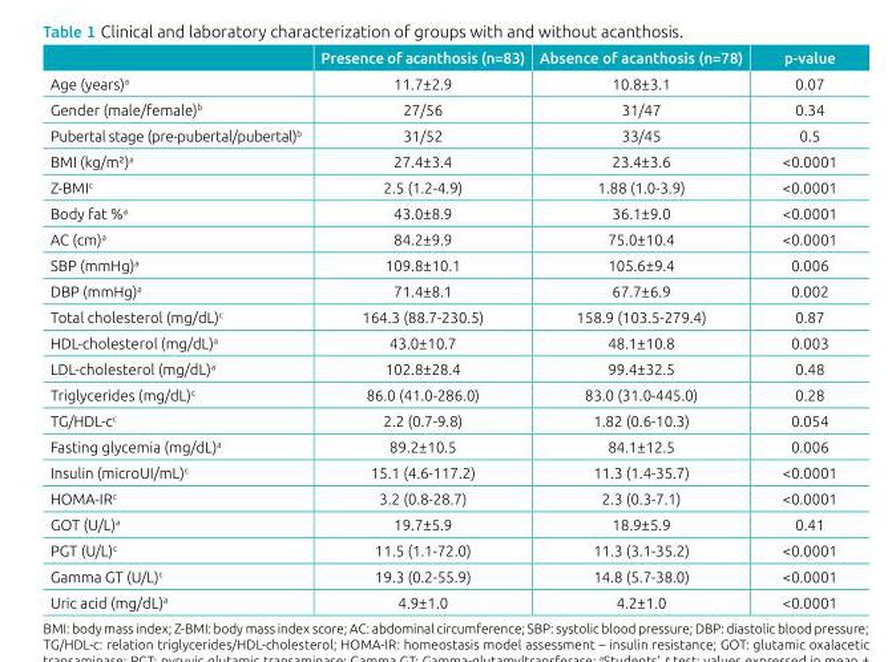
<table><thead><tr><td></td><td>Presence of acanthosis (n=83)</td><td>Absence of acanthosis (n=78)</td><td>p‑value</td></tr></thead><tbody><tr><td>Age (years)<sup>a</sup></td><td>11.7±2.9</td><td>10.8±3.1</td><td>0.07</td></tr><tr><td>Gender (male/female)<sup>b</sup></td><td>27/56</td><td>31/47</td><td>0.34</td></tr><tr><td>Pubertal stage (pre-pubertal/pubertal)<sup>b</sup></td><td>31/52</td><td>33/45</td><td>0.5</td></tr><tr><td>BMI (kg/m²)<sup>a</sup></td><td>27.4±3.4</td><td>23.4±3.6</td><td>&lt;0.0001</td></tr><tr><td>Z-BMI<sup>c</sup></td><td>2.5 (1.2-4.9)</td><td>1.88 (1.0-3.9)</td><td>&lt;0.0001</td></tr><tr><td>Body fat %<sup>a</sup></td><td>43.0±8.9</td><td>36.1±9.0</td><td>&lt;0.0001</td></tr><tr><td>AC (cm)<sup>a</sup></td><td>84.2±9.9</td><td>75.0±10.4</td><td>&lt;0.0001</td></tr><tr><td>SBP (mmHg)<sup>a</sup></td><td>109.8±10.1</td><td>105.6±9.4</td><td>0.006</td></tr><tr><td>DBP (mmHg)<sup>a</sup></td><td>71.4±8.1</td><td>67.7±6.9</td><td>0.002</td></tr><tr><td>Total cholesterol (mg/dL)<sup>c</sup></td><td>164.3 (88.7-230.5)</td><td>158.9 (103.5-279.4)</td><td>0.87</td></tr><tr><td>HDL-cholesterol (mg/dL)<sup>a</sup></td><td>43.0±10.7</td><td>48.1±10.8</td><td>0.003</td></tr><tr><td>LDL-cholesterol (mg/dL)<sup>a</sup></td><td>102.8±28.4</td><td>99.4±32.5</td><td>0.48</td></tr><tr><td>Triglycerides (mg/dL)<sup>c</sup></td><td>86.0 (41.0-286.0)</td><td>83.0 (31.0-445.0)</td><td>0.28</td></tr><tr><td>TG/HDL-c<sup>c</sup></td><td>2.2 (0.7-9.8)</td><td>1.82 (0.6-10.3)</td><td>0.054</td></tr><tr><td>Fasting glycemia (mg/dL)<sup>a</sup></td><td>89.2±10.5</td><td>84.1±12.5</td><td>0.006</td></tr><tr><td>Insulin (microUI/mL)<sup>c</sup></td><td>15.1 (4.6-117.2)</td><td>11.3 (1.4-35.7)</td><td>&lt;0.0001</td></tr><tr><td>HOMA-IR<sup>c</sup></td><td>3.2 (0.8-28.7)</td><td>2.3 (0.3-7.1)</td><td>&lt;0.0001</td></tr><tr><td>GOT (U/L)<sup>a</sup></td><td>19.7±5.9</td><td>18.9±5.9</td><td>0.41</td></tr><tr><td>PGT (U/L)<sup>c</sup></td><td>11.5 (1.1-72.0)</td><td>11.3 (3.1-35.2)</td><td>&lt;0.0001</td></tr><tr><td>Gamma GT (U/L)<sup>c</sup></td><td>19.3 (0.2-55.9)</td><td>14.8 (5.7-38.0)</td><td>&lt;0.0001</td></tr><tr><td>Uric acid (mg/dL)<sup>a</sup></td><td>4.9±1.0</td><td>4.2±1.0</td><td>&lt;0.0001</td></tr></tbody></table>